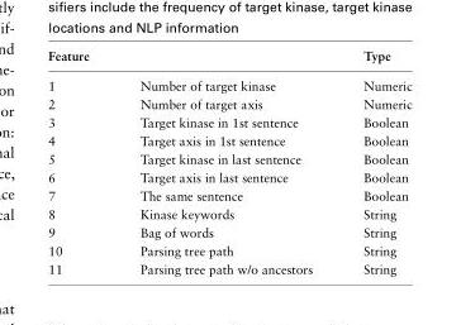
<table><thead><tr><td>Feature</td><td></td><td>Type</td></tr></thead><tbody><tr><td>1</td><td>Number of target kinase</td><td>Numeric</td></tr><tr><td>2</td><td>Number of target axis</td><td>Numeric</td></tr><tr><td>3</td><td>Target kinase in 1st sentence</td><td>Boolean</td></tr><tr><td>4</td><td>Target axis in 1st sentence</td><td>Boolean</td></tr><tr><td>5</td><td>Target kinase in last sentence</td><td>Boolean</td></tr><tr><td>6</td><td>Target axis in last sentence</td><td>Boolean</td></tr><tr><td>7</td><td>The same sentence</td><td>Boolean</td></tr><tr><td>8</td><td>Kinase keywords</td><td>String</td></tr><tr><td>9</td><td>Bag of words</td><td>String</td></tr><tr><td>10</td><td>Parsing tree path</td><td>String</td></tr><tr><td>11</td><td>Parsing tree path w/o ancestors</td><td>String</td></tr></tbody></table>